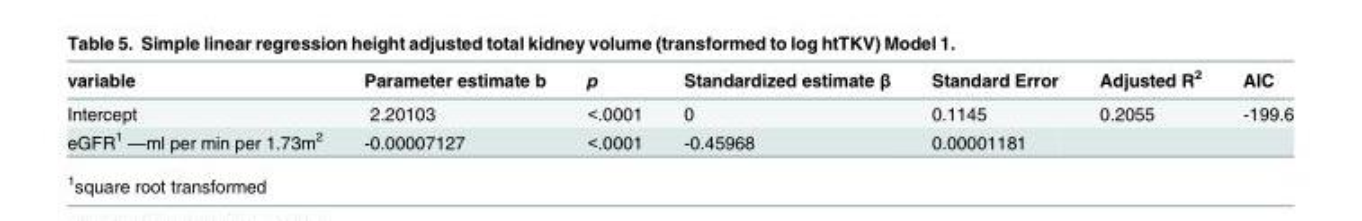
<table><thead><tr><td>variable</td><td>Parameter estimate b</td><td>p</td><td>Standardized estimate β</td><td>Standard Error</td><td>Adjusted R<sup>2</sup></td><td>AIC</td></tr></thead><tbody><tr><td>Intercept</td><td>2.20103</td><td>&lt;.0001</td><td>0</td><td>0.1145</td><td>0.2055</td><td>-199.6</td></tr><tr><td>eGFR<sup>1</sup> —ml per min per 1.73m<sup>2</sup></td><td>-0.00007127</td><td>&lt;.0001</td><td>-0.45968</td><td>0.00001181</td><td></td><td></td></tr></tbody></table>